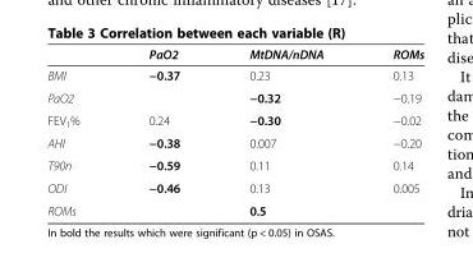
<table><thead><tr><td></td><td>PaO2</td><td>MtDNA/nDNA</td><td>ROMs</td></tr></thead><tbody><tr><td>BMI</td><td>−0.37</td><td>0.23</td><td>0.13</td></tr><tr><td>PaO2</td><td></td><td>−0.32</td><td>−0.19</td></tr><tr><td>FEV<sub>1</sub>%</td><td>0.24</td><td>−0.30</td><td>−0.02</td></tr><tr><td>AHI</td><td>−0.38</td><td>0.007</td><td>−0.20</td></tr><tr><td>T90n</td><td>−0.59</td><td>0.11</td><td>0.14</td></tr><tr><td>ODI</td><td>−0.46</td><td>0.13</td><td>0.005</td></tr><tr><td>ROMs</td><td></td><td>0.5</td><td></td></tr></tbody></table>